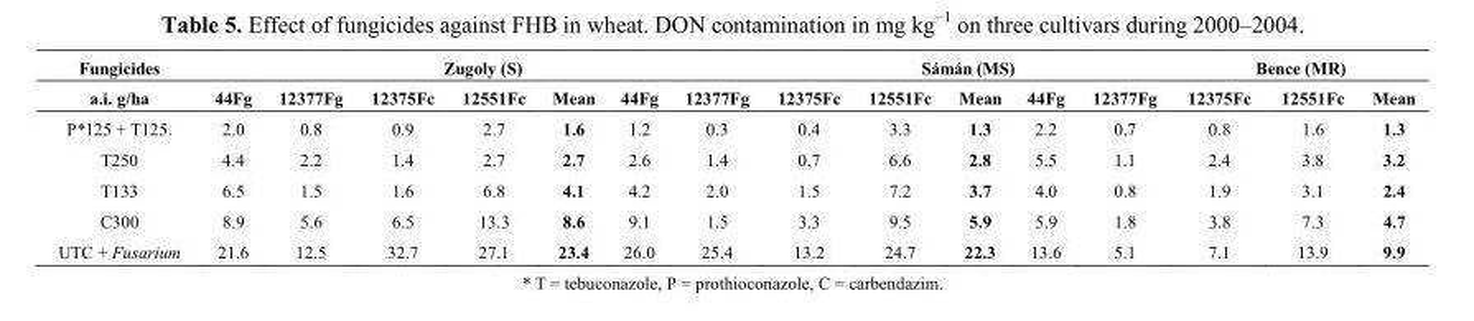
<table><thead><tr><td rowspan="2">Fungicides a.i. g/ha</td><td colspan="7">Zugoly (S)</td><td colspan="5">Sámán (MS)</td><td colspan="3">Bence (MR)</td></tr><tr><td>44Fg</td><td>12377Fg</td><td>12375Fc</td><td>12551Fc</td><td>Mean</td><td>44Fg</td><td>12377Fg</td><td>12375Fc</td><td>12551Fc</td><td>Mean</td><td>44Fg</td><td>12377Fg</td><td>12375Fc</td><td>12551Fc</td><td>Mean</td></tr></thead><tbody><tr><td>P*125 + T125.</td><td>2.0</td><td>0.8</td><td>0.9</td><td>2.7</td><td>1.6</td><td>1.2</td><td>0.3</td><td>0.4</td><td>3.3</td><td>1.3</td><td>2.2</td><td>0.7</td><td>0.8</td><td>1.6</td><td>1.3</td></tr><tr><td>T250</td><td>4.4</td><td>2.2</td><td>1.4</td><td>2.7</td><td>2.7</td><td>2.6</td><td>1.4</td><td>0.7</td><td>6.6</td><td>2.8</td><td>5.5</td><td>1.1</td><td>2.4</td><td>3.8</td><td>3.2</td></tr><tr><td>T133</td><td>6.5</td><td>1.5</td><td>1.6</td><td>6.8</td><td>4.1</td><td>4.2</td><td>2.0</td><td>1.5</td><td>7.2</td><td>3.7</td><td>4.0</td><td>0.8</td><td>1.9</td><td>3.1</td><td>2.4</td></tr><tr><td>C300</td><td>8.9</td><td>5.6</td><td>6.5</td><td>13.3</td><td>8.6</td><td>9.1</td><td>1.5</td><td>3.3</td><td>9.5</td><td>5.9</td><td>5.9</td><td>1.8</td><td>3.8</td><td>7.3</td><td>4.7</td></tr><tr><td>UTC + Fusarium</td><td>21.6</td><td>12.5</td><td>32.7</td><td>27.1</td><td>23.4</td><td>26.0</td><td>25.4</td><td>13.2</td><td>24.7</td><td>22.3</td><td>13.6</td><td>5.1</td><td>7.1</td><td>13.9</td><td>9.9</td></tr></tbody></table>